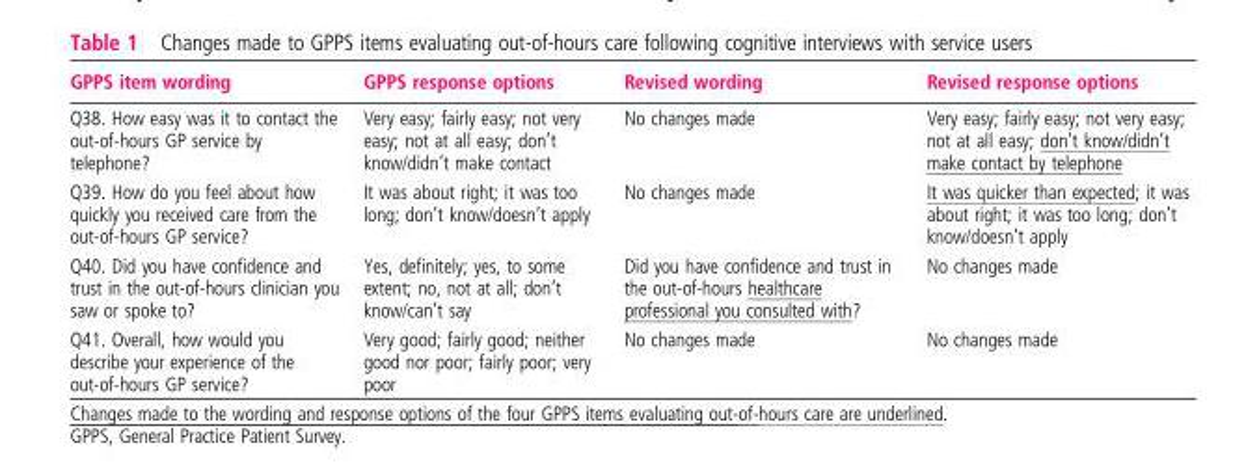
<table><thead><tr><td>GPPS item wording</td><td>GPPS response options</td><td>Revised wording</td><td>Revised response options</td></tr></thead><tbody><tr><td>Q38. How easy was it to contact the out-of-hours GP service by telephone?</td><td>Very easy; fairly easy; not very easy; not at all easy; don’t know/didn’t make contact</td><td>No changes made</td><td>Very easy; fairly easy; not very easy; not at all easy; don’t know/didn’t make contact by telephone</td></tr><tr><td>Q39. How do you feel about how quickly you received care from the out-of-hours GP service?</td><td>It was about right; it was too long; don’t know/doesn’t apply</td><td>No changes made</td><td>It was quicker than expected; it was about right; it was too long; don’t know/doesn’t apply</td></tr><tr><td>Q40. Did you have confidence and trust in the out-of-hours clinician you saw or spoke to?</td><td>Yes, definitely; yes, to some extent; no, not at all; don’t know/can’t say</td><td>Did you have confidence and trust in the out-of-hours healthcare professional you consulted with?</td><td>No changes made</td></tr><tr><td>Q41. Overall, how would you describe your experience of the out-of-hours GP service?</td><td>Very good; fairly good; neither good nor poor; fairly poor; very poor</td><td>No changes made</td><td>No changes made</td></tr></tbody></table>